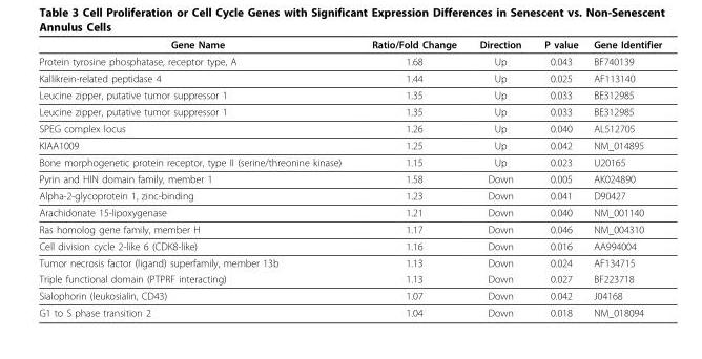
<table><thead><tr><td>Gene Name</td><td>Ratio/Fold Change</td><td>Direction</td><td>P value</td><td>Gene Identifier</td></tr></thead><tbody><tr><td>Protein tyrosine phosphatase, receptor type, A</td><td>1.68</td><td>Up</td><td>0.043</td><td>BF740139</td></tr><tr><td>Kallikrein-related peptidase 4</td><td>1.44</td><td>Up</td><td>0.025</td><td>AF113140</td></tr><tr><td>Leucine zipper, putative tumor suppressor 1</td><td>1.35</td><td>Up</td><td>0.033</td><td>BE312985</td></tr><tr><td>Leucine zipper, putative tumor suppressor 1</td><td>1.35</td><td>Up</td><td>0.033</td><td>BE312985</td></tr><tr><td>SPEG complex locus</td><td>1.26</td><td>Up</td><td>0.040</td><td>AL512705</td></tr><tr><td>KIAA1009</td><td>1.25</td><td>Up</td><td>0.042</td><td>NM_014895</td></tr><tr><td>Bone morphogenetic protein receptor, type II (serine/threonine kinase)</td><td>1.15</td><td>Up</td><td>0.023</td><td>U20165</td></tr><tr><td>Pyrin and HIN domain family, member 1</td><td>1.58</td><td>Down</td><td>0.005</td><td>AK024890</td></tr><tr><td>Alpha-2-glycoprotein 1, zinc-binding</td><td>1.23</td><td>Down</td><td>0.041</td><td>D90427</td></tr><tr><td>Arachidonate 15-lipoxygenase</td><td>1.21</td><td>Down</td><td>0.040</td><td>NM_001140</td></tr><tr><td>Ras homolog gene family, member H</td><td>1.17</td><td>Down</td><td>0.046</td><td>NM_004310</td></tr><tr><td>Cell division cycle 2-like 6 (CDK8-like)</td><td>1.16</td><td>Down</td><td>0.016</td><td>AA994004</td></tr><tr><td>Tumor necrosis factor (ligand) superfamily, member 13b</td><td>1.13</td><td>Down</td><td>0.024</td><td>AF134715</td></tr><tr><td>Triple functional domain (PTPRF interacting)</td><td>1.13</td><td>Down</td><td>0.027</td><td>BF223718</td></tr><tr><td>Sialophorin (leukosialin, CD43)</td><td>1.07</td><td>Down</td><td>0.042</td><td>J04168</td></tr><tr><td>G1 to S phase transition 2</td><td>1.04</td><td>Down</td><td>0.018</td><td>NM_018094</td></tr></tbody></table>